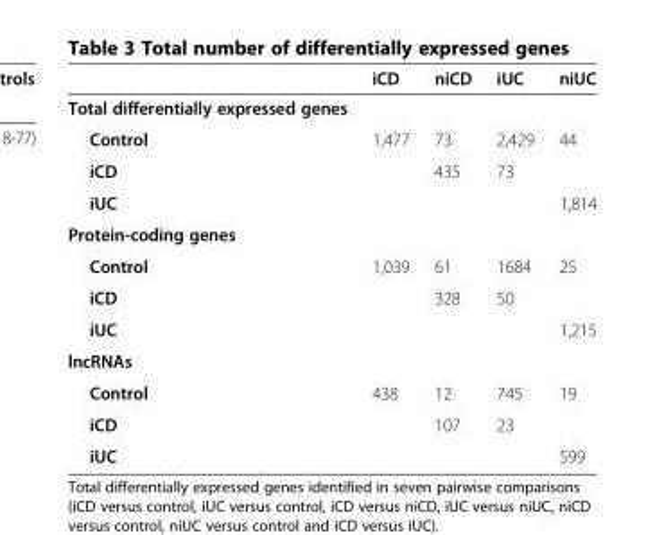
<table><thead><tr><td></td><td>iCD</td><td>niCD</td><td>iUC</td><td>niUC</td></tr></thead><tbody><tr><td colspan="5">Total differentially expressed genes</td></tr><tr><td>Control</td><td>1,477</td><td>73</td><td>2,429</td><td>44</td></tr><tr><td>iCD</td><td></td><td>435</td><td>73</td><td></td></tr><tr><td>iUC</td><td></td><td></td><td></td><td>1,814</td></tr><tr><td colspan="5">Protein-coding genes</td></tr><tr><td>Control</td><td>1,039</td><td>61</td><td>1684</td><td>25</td></tr><tr><td>iCD</td><td></td><td>328</td><td>50</td><td></td></tr><tr><td>iUC</td><td></td><td></td><td></td><td>1,215</td></tr><tr><td colspan="5">lncRNAs</td></tr><tr><td>Control</td><td>438</td><td>12</td><td>745</td><td>19</td></tr><tr><td>iCD</td><td></td><td>107</td><td>23</td><td></td></tr><tr><td>iUC</td><td></td><td></td><td></td><td>599</td></tr></tbody></table>